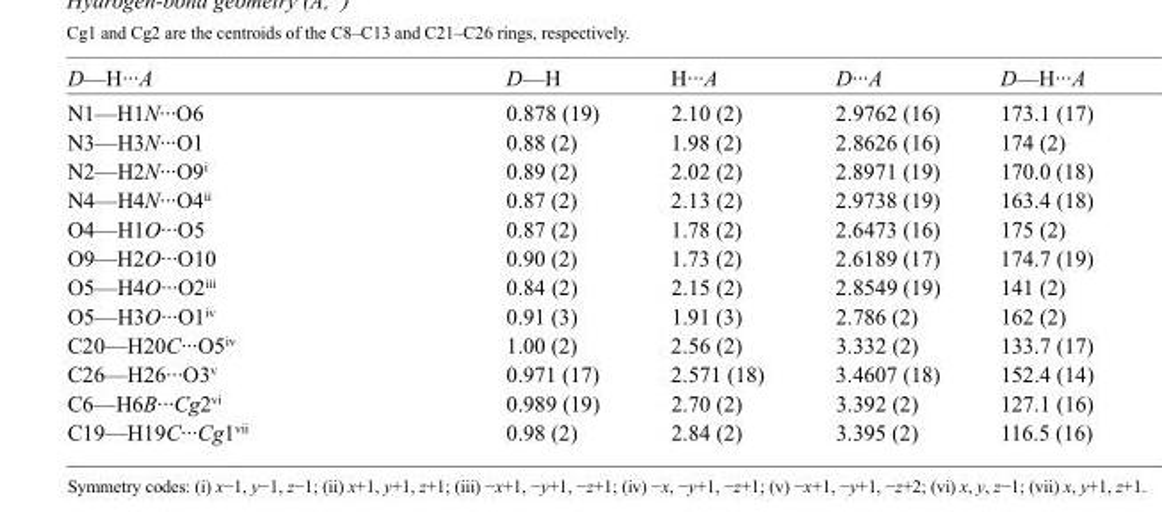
<table><tbody><tr><td>D—H···A</td><td>D—H</td><td>H···A</td><td>D···A</td><td>D—H···A</td></tr><tr><td>N1—H1N···O6</td><td>0.878 (19)</td><td>2.10 (2)</td><td>2.9762 (16)</td><td>173.1 (17)</td></tr><tr><td>N3—H3N···O1</td><td>0.88 (2)</td><td>1.98 (2)</td><td>2.8626 (16)</td><td>174 (2)</td></tr><tr><td>N2—H2N···O9<sup>i</sup></td><td>0.89 (2)</td><td>2.02 (2)</td><td>2.8971 (19)</td><td>170.0 (18)</td></tr><tr><td>N4—H4N···O4<sup>ii</sup></td><td>0.87 (2)</td><td>2.13 (2)</td><td>2.9738 (19)</td><td>163.4 (18)</td></tr><tr><td>O4—H1O···O5</td><td>0.87 (2)</td><td>1.78 (2)</td><td>2.6473 (16)</td><td>175 (2)</td></tr><tr><td>O9—H2O···O10</td><td>0.90 (2)</td><td>1.73 (2)</td><td>2.6189 (17)</td><td>174.7 (19)</td></tr><tr><td>O5—H4O···O2<sup>iii</sup></td><td>0.84 (2)</td><td>2.15 (2)</td><td>2.8549 (19)</td><td>141 (2)</td></tr><tr><td>O5—H3O···O1<sup>iv</sup></td><td>0.91 (3)</td><td>1.91 (3)</td><td>2.786 (2)</td><td>162 (2)</td></tr><tr><td>C20—H20C···O5<sup>iv</sup></td><td>1.00 (2)</td><td>2.56 (2)</td><td>3.332 (2)</td><td>133.7 (17)</td></tr><tr><td>C26—H26···O3<sup>v</sup></td><td>0.971 (17)</td><td>2.571 (18)</td><td>3.4607 (18)</td><td>152.4 (14)</td></tr><tr><td>C6—H6B···Cg2<sup>vi</sup></td><td>0.989 (19)</td><td>2.70 (2)</td><td>3.392 (2)</td><td>127.1 (16)</td></tr><tr><td>C19—H19C···Cg1<sup>vii</sup></td><td>0.98 (2)</td><td>2.84 (2)</td><td>3.395 (2)</td><td>116.5 (16)</td></tr></tbody></table>